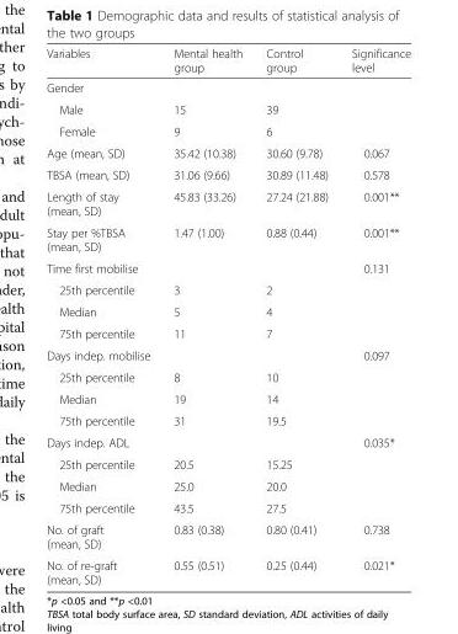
<table><thead><tr><td>Variables</td><td>Mental health group</td><td>Control group</td><td>Significance level</td></tr></thead><tbody><tr><td colspan="4">Gender</td></tr><tr><td>Male</td><td>15</td><td>39</td><td></td></tr><tr><td>Female</td><td>9</td><td>6</td><td></td></tr><tr><td>Age (mean, SD)</td><td>35.42 (10.38)</td><td>30.60 (9.78)</td><td>0.067</td></tr><tr><td>TBSA (mean, SD)</td><td>31.06 (9.66)</td><td>30.89 (11.48)</td><td>0.578</td></tr><tr><td>Length of stay (mean, SD)</td><td>45.83 (33.26)</td><td>27.24 (21.88)</td><td>0.001**</td></tr><tr><td>Stay per %TBSA (mean, SD)</td><td>1.47 (1.00)</td><td>0.88 (0.44)</td><td>0.001**</td></tr><tr><td>Time first mobilise</td><td></td><td></td><td>0.131</td></tr><tr><td>25th percentile</td><td>3</td><td>2</td><td></td></tr><tr><td>Median</td><td>5</td><td>4</td><td></td></tr><tr><td>75th percentile</td><td>11</td><td>7</td><td></td></tr><tr><td>Days indep. mobilise</td><td></td><td></td><td>0.097</td></tr><tr><td>25th percentile</td><td>8</td><td>10</td><td></td></tr><tr><td>Median</td><td>19</td><td>14</td><td></td></tr><tr><td>75th percentile</td><td>31</td><td>19.5</td><td></td></tr><tr><td>Days indep. ADL</td><td></td><td></td><td>0.035*</td></tr><tr><td>25th percentile</td><td>20.5</td><td>15.25</td><td></td></tr><tr><td>Median</td><td>25.0</td><td>20.0</td><td></td></tr><tr><td>75th percentile</td><td>43.5</td><td>27.5</td><td></td></tr><tr><td>No. of graft (mean, SD)</td><td>0.83 (0.38)</td><td>0.80 (0.41)</td><td>0.738</td></tr><tr><td>No. of re-graft (mean, SD)</td><td>0.55 (0.51)</td><td>0.25 (0.44)</td><td>0.021*</td></tr></tbody></table>